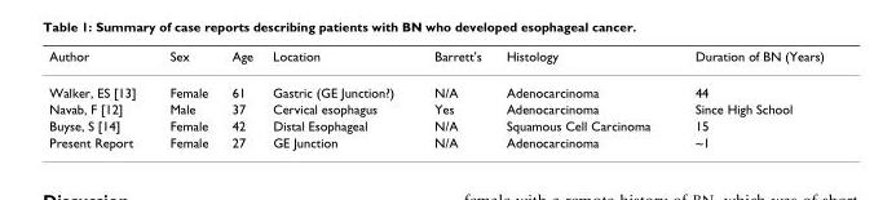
<table><thead><tr><td>Author</td><td>Sex</td><td>Age</td><td>Location</td><td>Barrett&#x27;s</td><td>Histology</td><td>Duration of BN (Years)</td></tr></thead><tbody><tr><td>Walker, ES [13]</td><td>Female</td><td>61</td><td>Gastric (GE Junction?)</td><td>N/A</td><td>Adenocarcinoma</td><td>44</td></tr><tr><td>Navab, F [12]</td><td>Male</td><td>37</td><td>Cervical esophagus</td><td>Yes</td><td>Adenocarcinoma</td><td>Since High School</td></tr><tr><td>Buyse, S [14]</td><td>Female</td><td>42</td><td>Distal Esophageal</td><td>N/A</td><td>Squamous Cell Carcinoma</td><td>15</td></tr><tr><td>Present Report</td><td>Female</td><td>27</td><td>GE Junction</td><td>N/A</td><td>Adenocarcinoma</td><td>~1</td></tr></tbody></table>